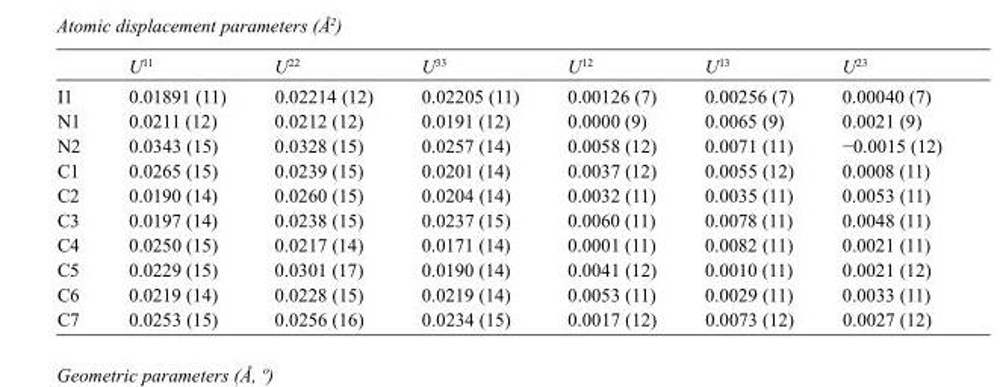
<table><thead><tr><td></td><td>U<sup>11</sup></td><td>U<sup>22</sup></td><td>U<sup>33</sup></td><td>U<sup>12</sup></td><td>U<sup>13</sup></td><td>U<sup>23</sup></td></tr></thead><tbody><tr><td>I1</td><td>0.01891 (11)</td><td>0.02214 (12)</td><td>0.02205 (11)</td><td>0.00126 (7)</td><td>0.00256 (7)</td><td>0.00040 (7)</td></tr><tr><td>N1</td><td>0.0211 (12)</td><td>0.0212 (12)</td><td>0.0191 (12)</td><td>0.0000 (9)</td><td>0.0065 (9)</td><td>0.0021 (9)</td></tr><tr><td>N2</td><td>0.0343 (15)</td><td>0.0328 (15)</td><td>0.0257 (14)</td><td>0.0058 (12)</td><td>0.0071 (11)</td><td>−0.0015 (12)</td></tr><tr><td>C1</td><td>0.0265 (15)</td><td>0.0239 (15)</td><td>0.0201 (14)</td><td>0.0037 (12)</td><td>0.0055 (12)</td><td>0.0008 (11)</td></tr><tr><td>C2</td><td>0.0190 (14)</td><td>0.0260 (15)</td><td>0.0204 (14)</td><td>0.0032 (11)</td><td>0.0035 (11)</td><td>0.0053 (11)</td></tr><tr><td>C3</td><td>0.0197 (14)</td><td>0.0238 (15)</td><td>0.0237 (15)</td><td>0.0060 (11)</td><td>0.0078 (11)</td><td>0.0048 (11)</td></tr><tr><td>C4</td><td>0.0250 (15)</td><td>0.0217 (14)</td><td>0.0171 (14)</td><td>0.0001 (11)</td><td>0.0082 (11)</td><td>0.0021 (11)</td></tr><tr><td>C5</td><td>0.0229 (15)</td><td>0.0301 (17)</td><td>0.0190 (14)</td><td>0.0041 (12)</td><td>0.0010 (11)</td><td>0.0021 (12)</td></tr><tr><td>C6</td><td>0.0219 (14)</td><td>0.0228 (15)</td><td>0.0219 (14)</td><td>0.0053 (11)</td><td>0.0029 (11)</td><td>0.0033 (11)</td></tr><tr><td>C7</td><td>0.0253 (15)</td><td>0.0256 (16)</td><td>0.0234 (15)</td><td>0.0017 (12)</td><td>0.0073 (12)</td><td>0.0027 (12)</td></tr></tbody></table>